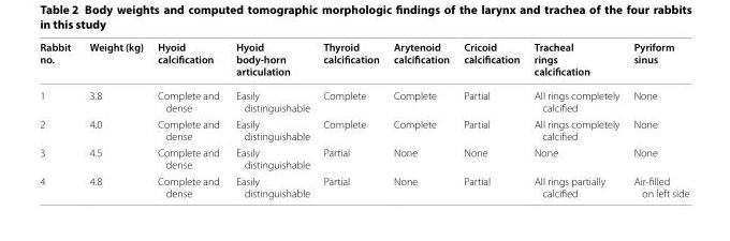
<table><thead><tr><td>Rabbit no.</td><td>Weight (kg)</td><td>Hyoid calcification</td><td>Hyoid body-horn articulation</td><td>Thyroid calcification</td><td>Arytenoid calcification</td><td>Cricoid calcification</td><td>Tracheal rings calcification</td><td>Pyriform sinus</td></tr></thead><tbody><tr><td>1</td><td>3.8</td><td>Complete and dense</td><td>Easily distinguishable</td><td>Complete</td><td>Complete</td><td>Partial</td><td>All rings completely calcified</td><td>None</td></tr><tr><td>2</td><td>4.0</td><td>Complete and dense</td><td>Easily distinguishable</td><td>Complete</td><td>Complete</td><td>Partial</td><td>All rings completely calcified</td><td>None</td></tr><tr><td>3</td><td>4.5</td><td>Complete and dense</td><td>Easily distinguishable</td><td>Partial</td><td>None</td><td>None</td><td>None</td><td>None</td></tr><tr><td>4</td><td>4.8</td><td>Complete and dense</td><td>Easily distinguishable</td><td>Partial</td><td>None</td><td>Partial</td><td>All rings partially calcified</td><td>Air‑filled on left side</td></tr></tbody></table>